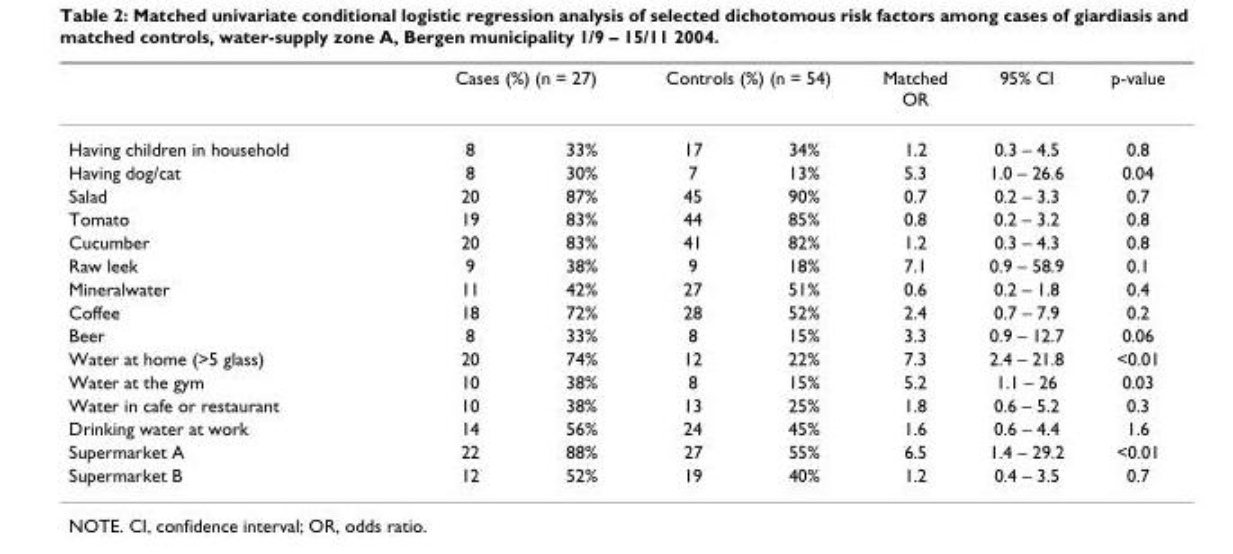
<table><thead><tr><td rowspan="2">Having children in household</td><td colspan="2">Cases (%) (n = 27)</td><td colspan="2">Controls (%) (n = 54)</td><td rowspan="2">Matched OR 1.2</td><td rowspan="2">95% CI 0.3 – 4.5</td><td rowspan="2">p-value 0.8</td></tr><tr><td>8</td><td>33%</td><td>17</td><td>34%</td></tr></thead><tbody><tr><td>Having dog/cat</td><td>8</td><td>30%</td><td>7</td><td>13%</td><td>5.3</td><td>1.0 – 26.6</td><td>0.04</td></tr><tr><td>Salad</td><td>20</td><td>87%</td><td>45</td><td>90%</td><td>0.7</td><td>0.2 – 3.3</td><td>0.7</td></tr><tr><td>Tomato</td><td>19</td><td>83%</td><td>44</td><td>85%</td><td>0.8</td><td>0.2 – 3.2</td><td>0.8</td></tr><tr><td>Cucumber</td><td>20</td><td>83%</td><td>41</td><td>82%</td><td>1.2</td><td>0.3 – 4.3</td><td>0.8</td></tr><tr><td>Raw leek</td><td>9</td><td>38%</td><td>9</td><td>18%</td><td>7.1</td><td>0.9 – 58.9</td><td>0.1</td></tr><tr><td>Mineralwater</td><td>11</td><td>42%</td><td>27</td><td>51%</td><td>0.6</td><td>0.2 – 1.8</td><td>0.4</td></tr><tr><td>Coffee</td><td>18</td><td>72%</td><td>28</td><td>52%</td><td>2.4</td><td>0.7 – 7.9</td><td>0.2</td></tr><tr><td>Beer</td><td>8</td><td>33%</td><td>8</td><td>15%</td><td>3.3</td><td>0.9 – 12.7</td><td>0.06</td></tr><tr><td>Water at home (&gt;5 glass)</td><td>20</td><td>74%</td><td>12</td><td>22%</td><td>7.3</td><td>2.4 – 21.8</td><td>&lt;0.01</td></tr><tr><td>Water at the gym</td><td>10</td><td>38%</td><td>8</td><td>15%</td><td>5.2</td><td>1.1 – 26</td><td>0.03</td></tr><tr><td>Water in cafe or restaurant</td><td>10</td><td>38%</td><td>13</td><td>25%</td><td>1.8</td><td>0.6 – 5.2</td><td>0.3</td></tr><tr><td>Drinking water at work</td><td>14</td><td>56%</td><td>24</td><td>45%</td><td>1.6</td><td>0.6 – 4.4</td><td>1.6</td></tr><tr><td>Supermarket A</td><td>22</td><td>88%</td><td>27</td><td>55%</td><td>6.5</td><td>1.4 – 29.2</td><td>&lt;0.01</td></tr><tr><td>Supermarket B</td><td>12</td><td>52%</td><td>19</td><td>40%</td><td>1.2</td><td>0.4 – 3.5</td><td>0.7</td></tr></tbody></table>